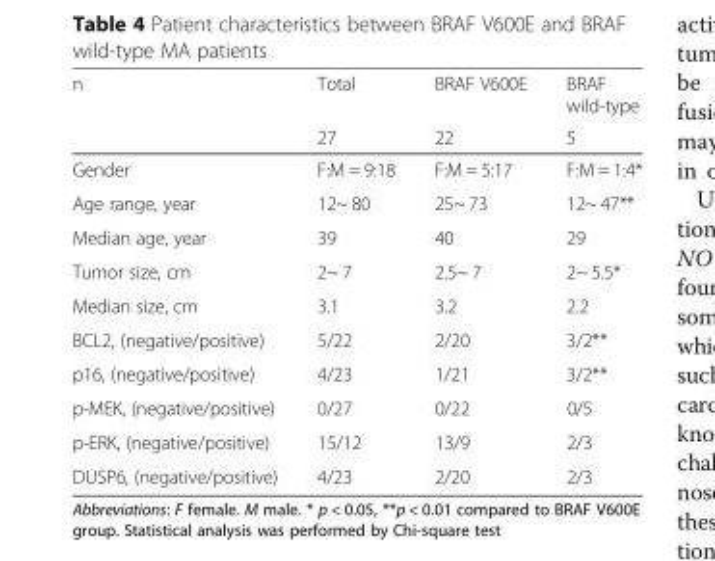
<table><thead><tr><td rowspan="2">n</td><td rowspan="2">Total 27</td><td rowspan="2">BRAF V600E 22</td><td rowspan="2">BRAF wild-type 5</td></tr><tr></tr></thead><tbody><tr><td>Gender</td><td>F:M = 9:18</td><td>F:M = 5:17</td><td>F:M = 1:4*</td></tr><tr><td>Age range, year</td><td>12~ 80</td><td>25~ 73</td><td>12~ 47**</td></tr><tr><td>Median age, year</td><td>39</td><td>40</td><td>29</td></tr><tr><td>Tumor size, cm</td><td>2~ 7</td><td>2.5~ 7</td><td>2~ 5.5*</td></tr><tr><td>Median size, cm</td><td>3.1</td><td>3.2</td><td>2.2</td></tr><tr><td>BCL2, (negative/positive)</td><td>5/22</td><td>2/20</td><td>3/2**</td></tr><tr><td>p16, (negative/positive)</td><td>4/23</td><td>1/21</td><td>3/2**</td></tr><tr><td>p-MEK, (negative/positive)</td><td>0/27</td><td>0/22</td><td>0/5</td></tr><tr><td>p-ERK, (negative/positive)</td><td>15/12</td><td>13/9</td><td>2/3</td></tr><tr><td>DUSP6, (negative/positive)</td><td>4/23</td><td>2/20</td><td>2/3</td></tr></tbody></table>